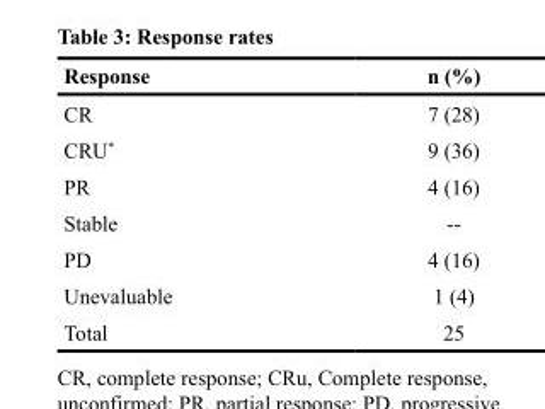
<table><thead><tr><td>Response</td><td>n (%)</td></tr></thead><tbody><tr><td>CR</td><td>7 (28)</td></tr><tr><td>CRU*</td><td>9 (36)</td></tr><tr><td>PR</td><td>4 (16)</td></tr><tr><td>Stable</td><td>--</td></tr><tr><td>PD</td><td>4 (16)</td></tr><tr><td>Unevaluable</td><td>1 (4)</td></tr><tr><td>Total</td><td>25</td></tr></tbody></table>